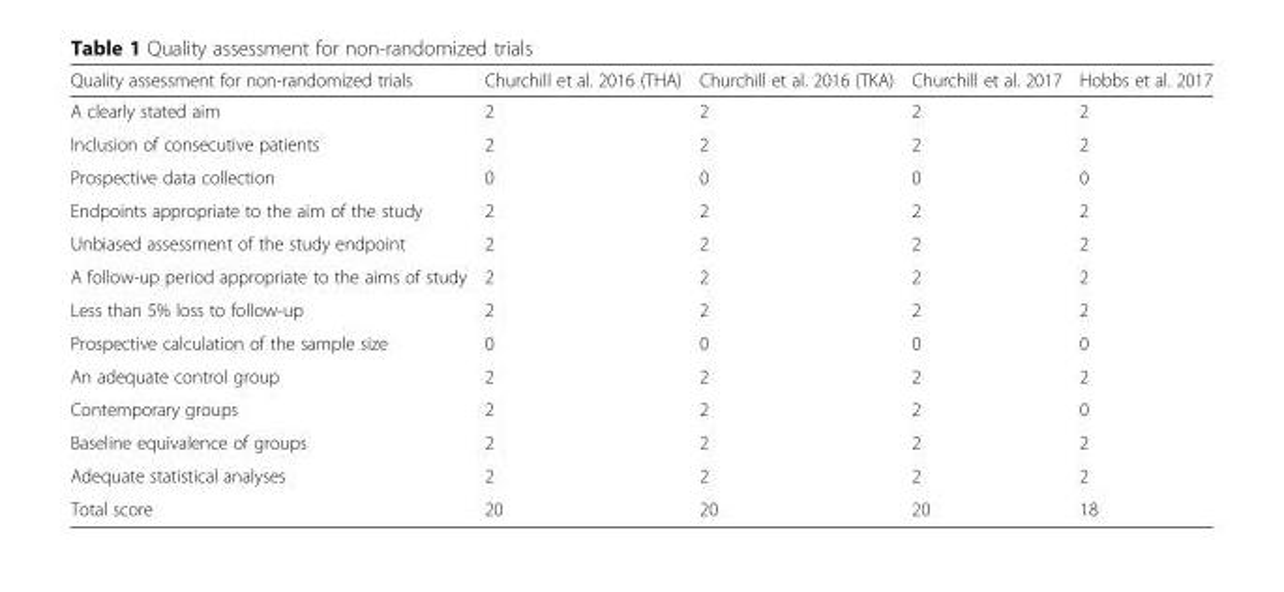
<table><thead><tr><td>Quality assessment for non-randomized trials</td><td>Churchill et al. 2016 (THA)</td><td>Churchill et al. 2016 (TKA)</td><td>Churchill et al. 2017</td><td>Hobbs et al. 2017</td></tr></thead><tbody><tr><td>A clearly stated aim</td><td>2</td><td>2</td><td>2</td><td>2</td></tr><tr><td>Inclusion of consecutive patients</td><td>2</td><td>2</td><td>2</td><td>2</td></tr><tr><td>Prospective data collection</td><td>0</td><td>0</td><td>0</td><td>0</td></tr><tr><td>Endpoints appropriate to the aim of the study</td><td>2</td><td>2</td><td>2</td><td>2</td></tr><tr><td>Unbiased assessment of the study endpoint</td><td>2</td><td>2</td><td>2</td><td>2</td></tr><tr><td>A follow-up period appropriate to the aims of study</td><td>2</td><td>2</td><td>2</td><td>2</td></tr><tr><td>Less than 5% loss to follow-up</td><td>2</td><td>2</td><td>2</td><td>2</td></tr><tr><td>Prospective calculation of the sample size</td><td>0</td><td>0</td><td>0</td><td>0</td></tr><tr><td>An adequate control group</td><td>2</td><td>2</td><td>2</td><td>2</td></tr><tr><td>Contemporary groups</td><td>2</td><td>2</td><td>2</td><td>0</td></tr><tr><td>Baseline equivalence of groups</td><td>2</td><td>2</td><td>2</td><td>2</td></tr><tr><td>Adequate statistical analyses</td><td>2</td><td>2</td><td>2</td><td>2</td></tr><tr><td>Total score</td><td>20</td><td>20</td><td>20</td><td>18</td></tr></tbody></table>